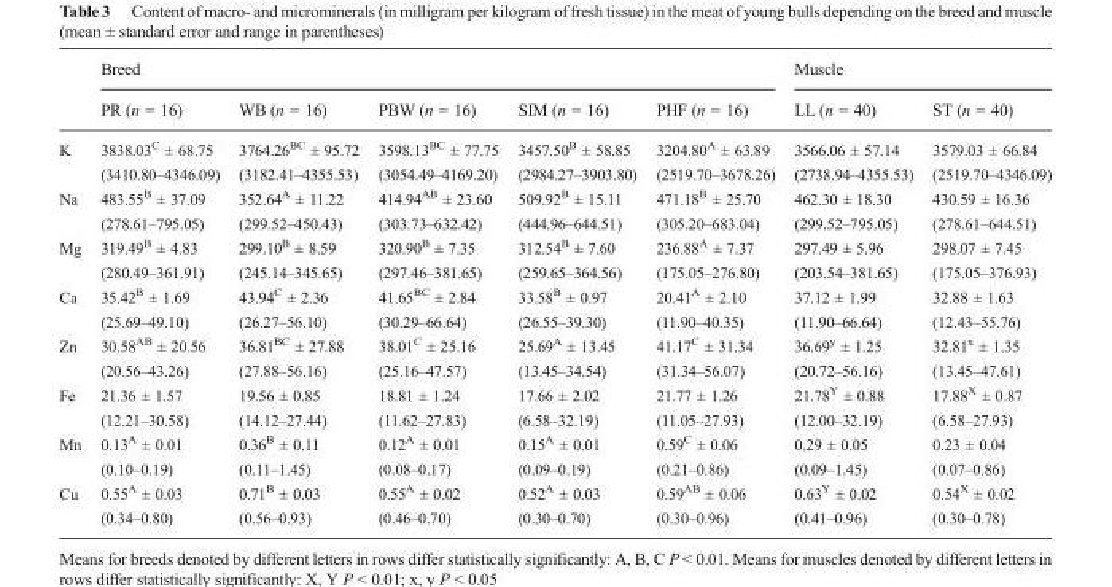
<table><thead><tr><td rowspan="2"></td><td colspan="5">Breed</td><td colspan="2">Muscle</td></tr><tr><td>PR (n = 16)</td><td>WB (n = 16)</td><td>PBW (n = 16)</td><td>SIM (n = 16)</td><td>PHF (n = 16)</td><td>LL (n = 40)</td><td>ST (n = 40)</td></tr></thead><tbody><tr><td rowspan="2">K</td><td>3838.03<sup>C</sup> ± 68.75</td><td>3764.26<sup>BC</sup> ± 95.72</td><td>3598.13<sup>BC</sup> ± 77.75</td><td>3457.50<sup>B</sup> ± 58.85</td><td>3204.80<sup>A</sup> ± 63.89</td><td>3566.06 ± 57.14</td><td>3579.03 ± 66.84</td></tr><tr><td>(3410.80–4346.09)</td><td>(3182.41–4355.53)</td><td>(3054.49–4169.20)</td><td>(2984.27–3903.80)</td><td>(2519.70–3678.26)</td><td>(2738.94–4355.53)</td><td>(2519.70–4346.09)</td></tr><tr><td rowspan="2">Na</td><td>483.55<sup>B</sup> ± 37.09</td><td>352.64<sup>A</sup> ± 11.22</td><td>414.94<sup>AB</sup> ± 23.60</td><td>509.92<sup>B</sup> ± 15.11</td><td>471.18<sup>B</sup> ± 25.70</td><td>462.30 ± 18.30</td><td>430.59 ± 16.36</td></tr><tr><td>(278.61–795.05)</td><td>(299.52–450.43)</td><td>(303.73–632.42)</td><td>(444.96–644.51)</td><td>(305.20–683.04)</td><td>(299.52–795.05)</td><td>(278.61–644.51)</td></tr><tr><td rowspan="2">Mg</td><td>319.49<sup>B</sup> ± 4.83</td><td>299.10<sup>B</sup> ± 8.59</td><td>320.90<sup>B</sup> ± 7.35</td><td>312.54<sup>B</sup> ± 7.60</td><td>236.88<sup>A</sup> ± 7.37</td><td>297.49 ± 5.96</td><td>298.07 ± 7.45</td></tr><tr><td>(280.49–361.91)</td><td>(245.14–345.65)</td><td>(297.46–381.65)</td><td>(259.65–364.56)</td><td>(175.05–276.80)</td><td>(203.54–381.65)</td><td>(175.05–376.93)</td></tr><tr><td rowspan="2">Ca</td><td>35.42<sup>B</sup> ± 1.69</td><td>43.94<sup>C</sup> ± 2.36</td><td>41.65<sup>BC</sup> ± 2.84</td><td>33.58<sup>B</sup> ± 0.97</td><td>20.41<sup>A</sup> ± 2.10</td><td>37.12 ± 1.99</td><td>32.88 ± 1.63</td></tr><tr><td>(25.69–49.10)</td><td>(26.27–56.10)</td><td>(30.29–66.64)</td><td>(26.55–39.30)</td><td>(11.90–40.35)</td><td>(11.90–66.64)</td><td>(12.43–55.76)</td></tr><tr><td rowspan="2">Zn</td><td>30.58<sup>AB</sup> ± 20.56</td><td>36.81<sup>BC</sup> ± 27.88</td><td>38.01<sup>C</sup> ± 25.16</td><td>25.69<sup>A</sup> ± 13.45</td><td>41.17<sup>C</sup> ± 31.34</td><td>36.69<sup>y</sup> ± 1.25</td><td>32.81<sup>x</sup> ± 1.35</td></tr><tr><td>(20.56–43.26)</td><td>(27.88–56.16)</td><td>(25.16–47.57)</td><td>(13.45–34.54)</td><td>(31.34–56.07)</td><td>(20.72–56.16)</td><td>(13.45–47.61)</td></tr><tr><td rowspan="2">Fe</td><td>21.36 ± 1.57</td><td>19.56 ± 0.85</td><td>18.81 ± 1.24</td><td>17.66 ± 2.02</td><td>21.77 ± 1.26</td><td>21.78<sup>Y</sup> ± 0.88</td><td>17.88<sup>X</sup> ± 0.87</td></tr><tr><td>(12.21–30.58)</td><td>(14.12–27.44)</td><td>(11.62–27.83)</td><td>(6.58–32.19)</td><td>(11.05–27.93)</td><td>(12.00–32.19)</td><td>(6.58–27.93)</td></tr><tr><td rowspan="2">Mn</td><td>0.13<sup>A</sup> ± 0.01</td><td>0.36<sup>B</sup> ± 0.11</td><td>0.12<sup>A</sup> ± 0.01</td><td>0.15<sup>A</sup> ± 0.01</td><td>0.59<sup>C</sup> ± 0.06</td><td>0.29 ± 0.05</td><td>0.23 ± 0.04</td></tr><tr><td>(0.10–0.19)</td><td>(0.11–1.45)</td><td>(0.08–0.17)</td><td>(0.09–0.19)</td><td>(0.21–0.86)</td><td>(0.09–1.45)</td><td>(0.07–0.86)</td></tr><tr><td rowspan="2">Cu</td><td>0.55<sup>A</sup> ± 0.03</td><td>0.71<sup>B</sup> ± 0.03</td><td>0.55<sup>A</sup> ± 0.02</td><td>0.52<sup>A</sup> ± 0.03</td><td>0.59<sup>AB</sup> ± 0.06</td><td>0.63<sup>Y</sup> ± 0.02</td><td>0.54<sup>X</sup> ± 0.02</td></tr><tr><td>(0.34–0.80)</td><td>(0.56–0.93)</td><td>(0.46–0.70)</td><td>(0.30–0.70)</td><td>(0.30–0.96)</td><td>(0.41–0.96)</td><td>(0.30–0.78)</td></tr></tbody></table>